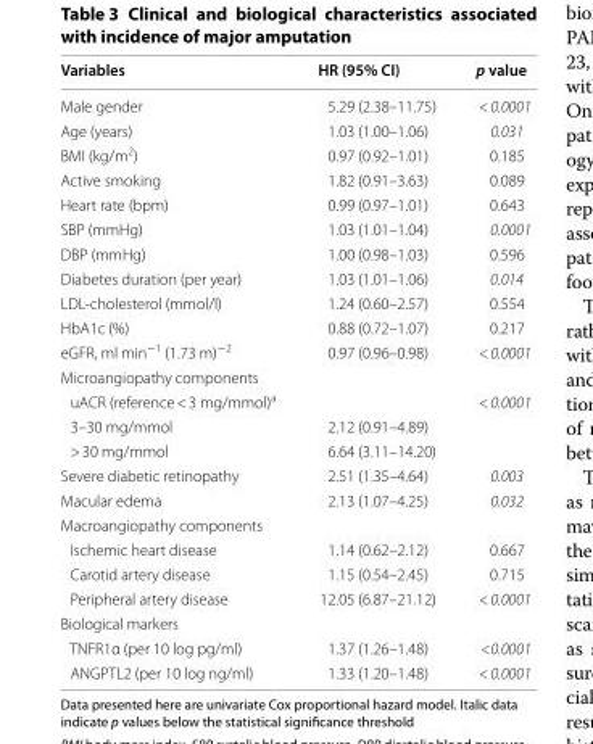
<table><thead><tr><td>Variables</td><td>HR (95% CI)</td><td>p value</td></tr></thead><tbody><tr><td>Male gender</td><td>5.29 (2.38–11.75)</td><td>&lt; 0.0001</td></tr><tr><td>Age (years)</td><td>1.03 (1.00–1.06)</td><td>0.031</td></tr><tr><td>BMI (kg/m<sup>2</sup>)</td><td>0.97 (0.92–1.01)</td><td>0.185</td></tr><tr><td>Active smoking</td><td>1.82 (0.91–3.63)</td><td>0.089</td></tr><tr><td>Heart rate (bpm)</td><td>0.99 (0.97–1.01)</td><td>0.643</td></tr><tr><td>SBP (mmHg)</td><td>1.03 (1.01–1.04)</td><td>0.0001</td></tr><tr><td>DBP (mmHg)</td><td>1.00 (0.98–1.03)</td><td>0.596</td></tr><tr><td>Diabetes duration (per year)</td><td>1.03 (1.01–1.06)</td><td>0.014</td></tr><tr><td>LDL‑cholesterol (mmol/l)</td><td>1.24 (0.60–2.57)</td><td>0.554</td></tr><tr><td>HbA1c (%)</td><td>0.88 (0.72–1.07)</td><td>0.217</td></tr><tr><td>eGFR, ml min<sup>−1</sup> (1.73 m)<sup>−2</sup></td><td>0.97 (0.96–0.98)</td><td>&lt; 0.0001</td></tr><tr><td colspan="3">Microangiopathy components</td></tr><tr><td>uACR (reference &lt; 3 mg/mmol)<sup>a</sup></td><td></td><td>&lt; 0.0001</td></tr><tr><td>3–30 mg/mmol</td><td>2.12 (0.91–4.89)</td><td></td></tr><tr><td>&gt; 30 mg/mmol</td><td>6.64 (3.11–14.20)</td><td></td></tr><tr><td>Severe diabetic retinopathy</td><td>2.51 (1.35–4.64)</td><td>0.003</td></tr><tr><td>Macular edema</td><td>2.13 (1.07–4.25)</td><td>0.032</td></tr><tr><td colspan="3">Macroangiopathy components</td></tr><tr><td>Ischemic heart disease</td><td>1.14 (0.62–2.12)</td><td>0.667</td></tr><tr><td>Carotid artery disease</td><td>1.15 (0.54–2.45)</td><td>0.715</td></tr><tr><td>Peripheral artery disease</td><td>12.05 (6.87–21.12)</td><td>&lt; 0.0001</td></tr><tr><td colspan="3">Biological markers</td></tr><tr><td>TNFR1α (per 10 log pg/ml)</td><td>1.37 (1.26–1.48)</td><td>&lt;0.0001</td></tr><tr><td>ANGPTL2 (per 10 log ng/ml)</td><td>1.33 (1.20–1.48)</td><td>&lt; 0.0001</td></tr></tbody></table>